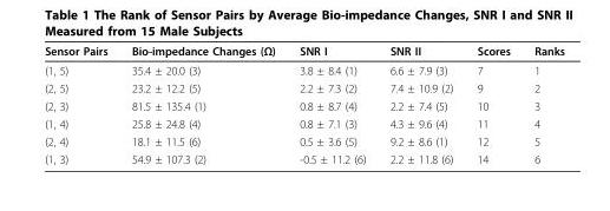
<table><thead><tr><td>Sensor Pairs</td><td>Bio-impedance Changes (Ω)</td><td>SNR I</td><td>SNR II</td><td>Scores</td><td>Ranks</td></tr></thead><tbody><tr><td>(1, 5)</td><td>35.4 ± 20.0 (3)</td><td>3.8 ± 8.4 (1)</td><td>6.6 ± 7.9 (3)</td><td>7</td><td>1</td></tr><tr><td>(2, 5)</td><td>23.2 ± 12.2 (5)</td><td>2.2 ± 7.3 (2)</td><td>7.4 ± 10.9 (2)</td><td>9</td><td>2</td></tr><tr><td>(2, 3)</td><td>81.5 ± 135.4 (1)</td><td>0.8 ± 8.7 (4)</td><td>2.2 ± 7.4 (5)</td><td>10</td><td>3</td></tr><tr><td>(1, 4)</td><td>25.8 ± 24.8 (4)</td><td>0.8 ± 7.1 (3)</td><td>4.3 ± 9.6 (4)</td><td>11</td><td>4</td></tr><tr><td>(2, 4)</td><td>18.1 ± 11.5 (6)</td><td>0.5 ± 3.6 (5)</td><td>9.2 ± 8.6 (1)</td><td>12</td><td>5</td></tr><tr><td>(1, 3)</td><td>54.9 ± 107.3 (2)</td><td>-0.5 ± 11.2 (6)</td><td>2.2 ± 11.8 (6)</td><td>14</td><td>6</td></tr></tbody></table>